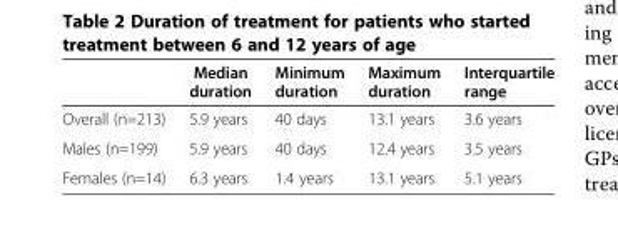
<table><thead><tr><td></td><td>Median duration</td><td>Minimum duration</td><td>Maximum duration</td><td>Interquartile range</td></tr></thead><tbody><tr><td>Overall (n=213)</td><td>5.9 years</td><td>40 days</td><td>13.1 years</td><td>3.6 years</td></tr><tr><td>Males (n=199)</td><td>5.9 years</td><td>40 days</td><td>12.4 years</td><td>3.5 years</td></tr><tr><td>Females (n=14)</td><td>6.3 years</td><td>1.4 years</td><td>13.1 years</td><td>5.1 years</td></tr></tbody></table>